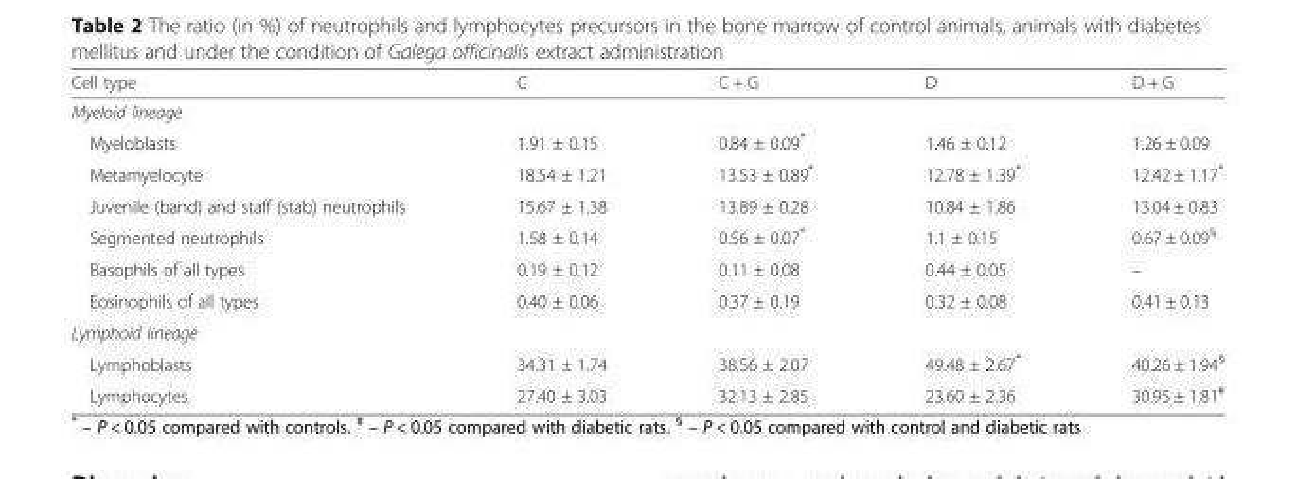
<table><thead><tr><td>Cell type</td><td>C</td><td>C + G</td><td>D</td><td>D + G</td></tr></thead><tbody><tr><td colspan="5">Myeloid lineage</td></tr><tr><td>Myeloblasts</td><td>1.91 ± 0.15</td><td>0.84 ± 0.09*</td><td>1.46 ± 0.12</td><td>1.26 ± 0.09</td></tr><tr><td>Metamyelocyte</td><td>18.54 ± 1.21</td><td>13.53 ± 0.89*</td><td>12.78 ± 1.39*</td><td>12.42 ± 1.17*</td></tr><tr><td>Juvenile (band) and staff (stab) neutrophils</td><td>15.67 ± 1.38</td><td>13.89 ± 0.28</td><td>10.84 ± 1.86</td><td>13.04 ± 0.83</td></tr><tr><td>Segmented neutrophils</td><td>1.58 ± 0.14</td><td>0.56 ± 0.07*</td><td>1.1 ± 0.15</td><td>0.67 ± 0.09<sup>§</sup></td></tr><tr><td>Basophils of all types</td><td>0.19 ± 0.12</td><td>0.11 ± 0.08</td><td>0.44 ± 0.05</td><td>–</td></tr><tr><td>Eosinophils of all types</td><td>0.40 ± 0.06</td><td>0.37 ± 0.19</td><td>0.32 ± 0.08</td><td>0.41 ± 0.13</td></tr><tr><td colspan="5">Lymphoid lineage</td></tr><tr><td>Lymphoblasts</td><td>34.31 ± 1.74</td><td>38.56 ± 2.07</td><td>49.48 ± 2.67*</td><td>40.26 ± 1.94<sup>§</sup></td></tr><tr><td>Lymphocytes</td><td>27.40 ± 3.03</td><td>32.13 ± 2.85</td><td>23.60 ± 2.36</td><td>30.95 ± 1.81<sup>#</sup></td></tr></tbody></table>